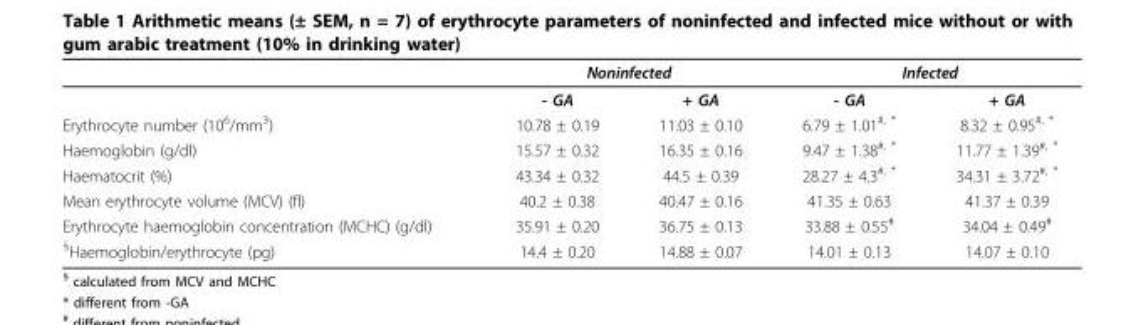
<table><thead><tr><td rowspan="2"></td><td colspan="2">Noninfected</td><td colspan="2">Infected</td></tr><tr><td>- GA</td><td>+ GA</td><td>- GA</td><td>+ GA</td></tr></thead><tbody><tr><td>Erythrocyte number (10<sup>6</sup>/mm<sup>3</sup>)</td><td>10.78 ± 0.19</td><td>11.03 ± 0.10</td><td>6.79 ± 1.01<sup>#, *</sup></td><td>8.32 ± 0.95<sup>#, *</sup></td></tr><tr><td>Haemoglobin (g/dl)</td><td>15.57 ± 0.32</td><td>16.35 ± 0.16</td><td>9.47 ± 1.38<sup>#, *</sup></td><td>11.77 ± 1.39<sup>#, *</sup></td></tr><tr><td>Haematocrit (%)</td><td>43.34 ± 0.32</td><td>44.5 ± 0.39</td><td>28.27 ± 4.3<sup>#, *</sup></td><td>34.31 ± 3.72<sup>#, *</sup></td></tr><tr><td>Mean erythrocyte volume (MCV) (fl)</td><td>40.2 ± 0.38</td><td>40.47 ± 0.16</td><td>41.35 ± 0.63</td><td>41.37 ± 0.39</td></tr><tr><td>Erythrocyte haemoglobin concentration (MCHC) (g/dl)</td><td>35.91 ± 0.20</td><td>36.75 ± 0.13</td><td>33.88 ± 0.55<sup>#</sup></td><td>34.04 ± 0.49<sup>#</sup></td></tr><tr><td><sup>§</sup>Haemoglobin/erythrocyte (pg)</td><td>14.4 ± 0.20</td><td>14.88 ± 0.07</td><td>14.01 ± 0.13</td><td>14.07 ± 0.10</td></tr></tbody></table>